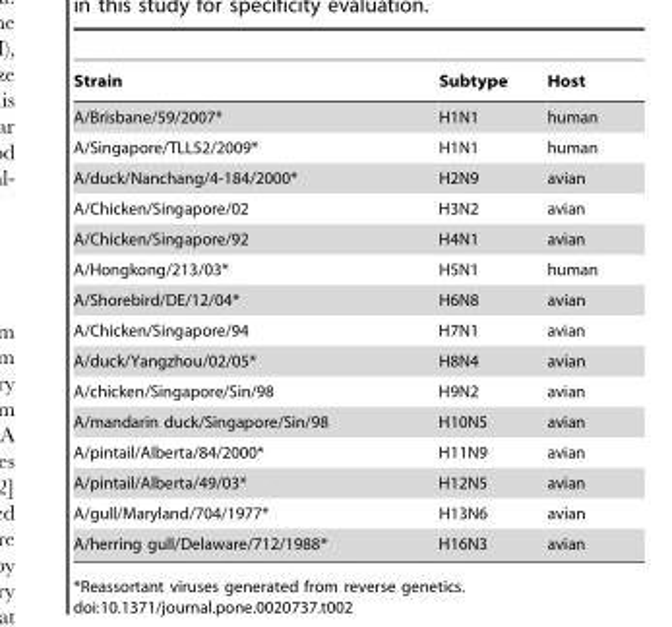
<table><thead><tr><td>Strain</td><td>Subtype</td><td>Host</td></tr></thead><tbody><tr><td>A/Brisbane/59/2007*</td><td>H1N1</td><td>human</td></tr><tr><td>A/Singapore/TLL52/2009*</td><td>H1N1</td><td>human</td></tr><tr><td>A/duck/Nanchang/4-184/2000*</td><td>H2N9</td><td>avian</td></tr><tr><td>A/Chicken/Singapore/02</td><td>H3N2</td><td>avian</td></tr><tr><td>A/Chicken/Singapore/92</td><td>H4N1</td><td>avian</td></tr><tr><td>A/Hongkong/213/03*</td><td>H5N1</td><td>human</td></tr><tr><td>A/Shorebird/DE/12/04*</td><td>H6N8</td><td>avian</td></tr><tr><td>A/Chicken/Singapore/94</td><td>H7N1</td><td>avian</td></tr><tr><td>A/duck/Yangzhou/02/05*</td><td>H8N4</td><td>avian</td></tr><tr><td>A/chicken/Singapore/Sin/98</td><td>H9N2</td><td>avian</td></tr><tr><td>A/mandarin duck/Singapore/Sin/98</td><td>H10N5</td><td>avian</td></tr><tr><td>A/pintail/Alberta/84/2000*</td><td>H11N9</td><td>avian</td></tr><tr><td>A/pintail/Alberta/49/03*</td><td>H12N5</td><td>avian</td></tr><tr><td>A/gull/Maryland/704/1977*</td><td>H13N6</td><td>avian</td></tr><tr><td>A/herring gull/Delaware/712/1988*</td><td>H16N3</td><td>avian</td></tr></tbody></table>